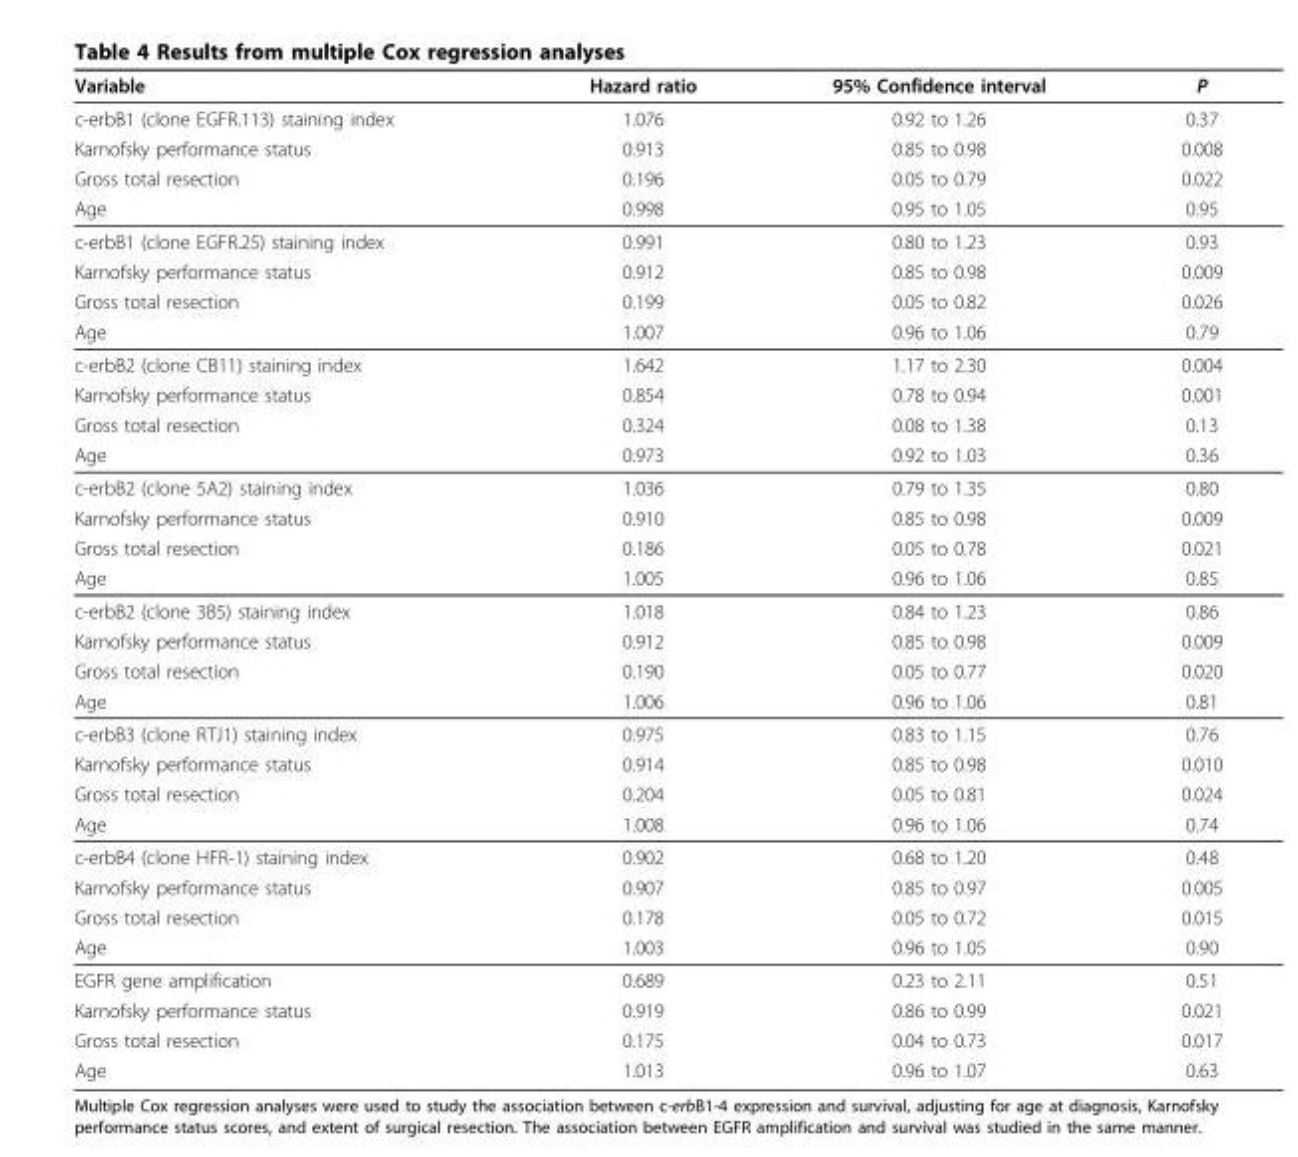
<table><thead><tr><td>Variable</td><td>Hazard ratio</td><td>95% Confidence interval</td><td>P</td></tr></thead><tbody><tr><td>c-erbB1 (clone EGFR.113) staining index</td><td>1.076</td><td>0.92 to 1.26</td><td>0.37</td></tr><tr><td>Karnofsky performance status</td><td>0.913</td><td>0.85 to 0.98</td><td>0.008</td></tr><tr><td>Gross total resection</td><td>0.196</td><td>0.05 to 0.79</td><td>0.022</td></tr><tr><td>Age</td><td>0.998</td><td>0.95 to 1.05</td><td>0.95</td></tr><tr><td>c-erbB1 (clone EGFR.25) staining index</td><td>0.991</td><td>0.80 to 1.23</td><td>0.93</td></tr><tr><td>Karnofsky performance status</td><td>0.912</td><td>0.85 to 0.98</td><td>0.009</td></tr><tr><td>Gross total resection</td><td>0.199</td><td>0.05 to 0.82</td><td>0.026</td></tr><tr><td>Age</td><td>1.007</td><td>0.96 to 1.06</td><td>0.79</td></tr><tr><td>c-erbB2 (clone CB11) staining index</td><td>1.642</td><td>1.17 to 2.30</td><td>0.004</td></tr><tr><td>Karnofsky performance status</td><td>0.854</td><td>0.78 to 0.94</td><td>0.001</td></tr><tr><td>Gross total resection</td><td>0.324</td><td>0.08 to 1.38</td><td>0.13</td></tr><tr><td>Age</td><td>0.973</td><td>0.92 to 1.03</td><td>0.36</td></tr><tr><td>c-erbB2 (clone 5A2) staining index</td><td>1.036</td><td>0.79 to 1.35</td><td>0.80</td></tr><tr><td>Karnofsky performance status</td><td>0.910</td><td>0.85 to 0.98</td><td>0.009</td></tr><tr><td>Gross total resection</td><td>0.186</td><td>0.05 to 0.78</td><td>0.021</td></tr><tr><td>Age</td><td>1.005</td><td>0.96 to 1.06</td><td>0.85</td></tr><tr><td>c-erbB2 (clone 3B5) staining index</td><td>1.018</td><td>0.84 to 1.23</td><td>0.86</td></tr><tr><td>Karnofsky performance status</td><td>0.912</td><td>0.85 to 0.98</td><td>0.009</td></tr><tr><td>Gross total resection</td><td>0.190</td><td>0.05 to 0.77</td><td>0.020</td></tr><tr><td>Age</td><td>1.006</td><td>0.96 to 1.06</td><td>0.81</td></tr><tr><td>c-erbB3 (clone RTJ1) staining index</td><td>0.975</td><td>0.83 to 1.15</td><td>0.76</td></tr><tr><td>Karnofsky performance status</td><td>0.914</td><td>0.85 to 0.98</td><td>0.010</td></tr><tr><td>Gross total resection</td><td>0.204</td><td>0.05 to 0.81</td><td>0.024</td></tr><tr><td>Age</td><td>1.008</td><td>0.96 to 1.06</td><td>0.74</td></tr><tr><td>c-erbB4 (clone HFR-1) staining index</td><td>0.902</td><td>0.68 to 1.20</td><td>0.48</td></tr><tr><td>Karnofsky performance status</td><td>0.907</td><td>0.85 to 0.97</td><td>0.005</td></tr><tr><td>Gross total resection</td><td>0.178</td><td>0.05 to 0.72</td><td>0.015</td></tr><tr><td>Age</td><td>1.003</td><td>0.96 to 1.05</td><td>0.90</td></tr><tr><td>EGFR gene amplification</td><td>0.689</td><td>0.23 to 2.11</td><td>0.51</td></tr><tr><td>Karnofsky performance status</td><td>0.919</td><td>0.86 to 0.99</td><td>0.021</td></tr><tr><td>Gross total resection</td><td>0.175</td><td>0.04 to 0.73</td><td>0.017</td></tr><tr><td>Age</td><td>1.013</td><td>0.96 to 1.07</td><td>0.63</td></tr></tbody></table>